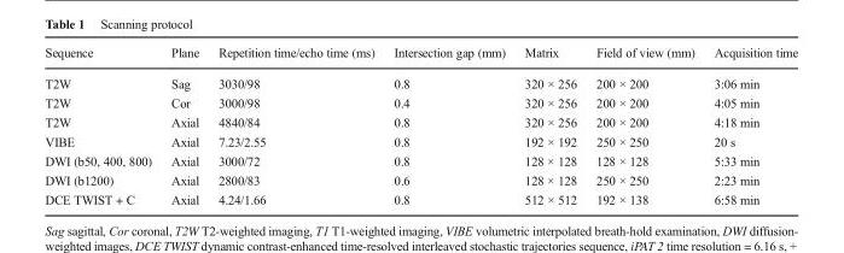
<table><thead><tr><td>Sequence</td><td>Plane</td><td>Repetition time/echo time (ms)</td><td>Intersection gap (mm)</td><td>Matrix</td><td>Field of view (mm)</td><td>Acquisition time</td></tr></thead><tbody><tr><td>T2W</td><td>Sag</td><td>3030/98</td><td>0.8</td><td>320 × 256</td><td>200 × 200</td><td>3:06 min</td></tr><tr><td>T2W</td><td>Cor</td><td>3000/98</td><td>0.4</td><td>320 × 256</td><td>200 × 200</td><td>4:05 min</td></tr><tr><td>T2W</td><td>Axial</td><td>4840/84</td><td>0.8</td><td>320 × 256</td><td>200 × 200</td><td>4:18 min</td></tr><tr><td>VIBE</td><td>Axial</td><td>7.23/2.55</td><td>0.8</td><td>192 × 192</td><td>250 × 250</td><td>20 s</td></tr><tr><td>DWI (b50, 400, 800)</td><td>Axial</td><td>3000/72</td><td>0.8</td><td>128 × 128</td><td>128 × 128</td><td>5:33 min</td></tr><tr><td>DWI (b1200)</td><td>Axial</td><td>2800/83</td><td>0.6</td><td>128 × 128</td><td>250 × 250</td><td>2:23 min</td></tr><tr><td>DCE TWIST + C</td><td>Axial</td><td>4.24/1.66</td><td>0.8</td><td>512 × 512</td><td>192 × 138</td><td>6:58 min</td></tr></tbody></table>